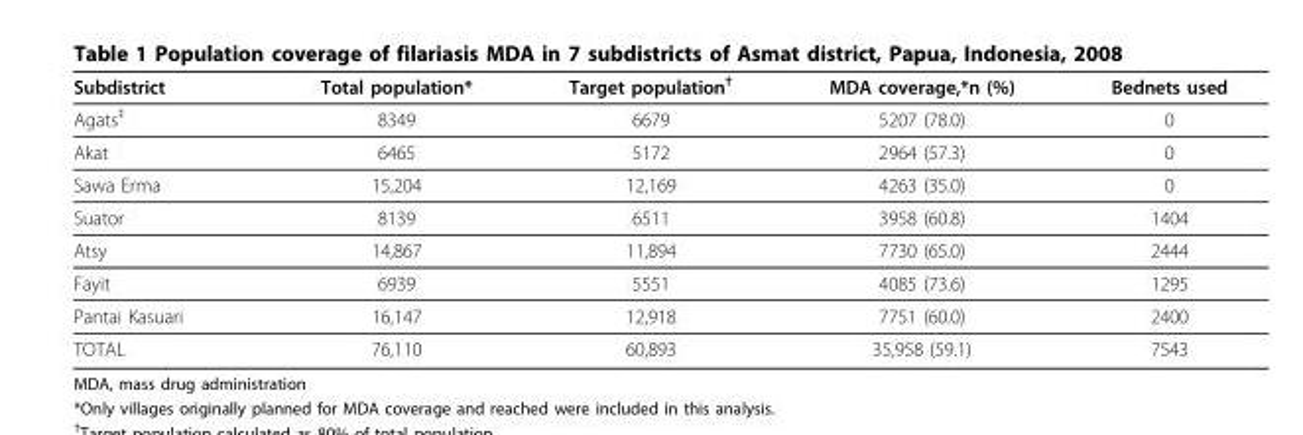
<table><thead><tr><td>Subdistrict</td><td>Total population*</td><td>Target population<sup>†</sup></td><td>MDA coverage,*n (%)</td><td>Bednets used</td></tr></thead><tbody><tr><td>Agats<sup>‡</sup></td><td>8349</td><td>6679</td><td>5207 (78.0)</td><td>0</td></tr><tr><td>Akat</td><td>6465</td><td>5172</td><td>2964 (57.3)</td><td>0</td></tr><tr><td>Sawa Erma</td><td>15,204</td><td>12,169</td><td>4263 (35.0)</td><td>0</td></tr><tr><td>Suator</td><td>8139</td><td>6511</td><td>3958 (60.8)</td><td>1404</td></tr><tr><td>Atsy</td><td>14,867</td><td>11,894</td><td>7730 (65.0)</td><td>2444</td></tr><tr><td>Fayit</td><td>6939</td><td>5551</td><td>4085 (73.6)</td><td>1295</td></tr><tr><td>Pantai Kasuari</td><td>16,147</td><td>12,918</td><td>7751 (60.0)</td><td>2400</td></tr><tr><td>TOTAL</td><td>76,110</td><td>60,893</td><td>35,958 (59.1)</td><td>7543</td></tr></tbody></table>